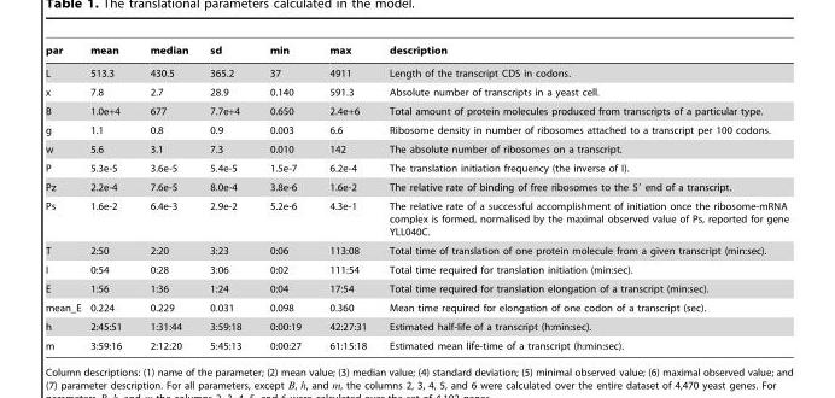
<table><thead><tr><td>par</td><td>mean</td><td>median</td><td>sd</td><td>min</td><td>max</td><td>description</td></tr></thead><tbody><tr><td>L</td><td>513.3</td><td>430.5</td><td>365.2</td><td>37</td><td>4911</td><td>Length of the transcript CDS in codons.</td></tr><tr><td>x</td><td>7.8</td><td>2.7</td><td>28.9</td><td>0.140</td><td>591.3</td><td>Absolute number of transcripts in a yeast cell.</td></tr><tr><td>B</td><td>1.0e+4</td><td>677</td><td>7.7e+4</td><td>0.650</td><td>2.4e+6</td><td>Total amount of protein molecules produced from transcripts of a particular type.</td></tr><tr><td>g</td><td>1.1</td><td>0.8</td><td>0.9</td><td>0.003</td><td>6.6</td><td>Ribosome density in number of ribosomes attached to a transcript per 100 codons.</td></tr><tr><td>w</td><td>5.6</td><td>3.1</td><td>7.3</td><td>0.010</td><td>142</td><td>The absolute number of ribosomes on a transcript.</td></tr><tr><td>P</td><td>5.3e-5</td><td>3.6e-5</td><td>5.4e-5</td><td>1.5e-7</td><td>6.2e-4</td><td>The translation initiation frequency (the inverse of I).</td></tr><tr><td>Pz</td><td>2.2e-4</td><td>7.6e-5</td><td>8.0e-4</td><td>3.8e-6</td><td>1.6e-2</td><td>The relative rate of binding of free ribosomes to the 5′ end of a transcript.</td></tr><tr><td>Ps</td><td>1.6e-2</td><td>6.4e-3</td><td>2.9e-2</td><td>5.2e-6</td><td>4.3e-1</td><td>The relative rate of a successful accomplishment of initiation once the ribosome-mRNA complex is formed, normalised by the maximal observed value of Ps, reported for gene YLL040C.</td></tr><tr><td>T</td><td>2:50</td><td>2:20</td><td>3:23</td><td>0:06</td><td>113:08</td><td>Total time of translation of one protein molecule from a given transcript (min:sec).</td></tr><tr><td>I</td><td>0:54</td><td>0:28</td><td>3:06</td><td>0:02</td><td>111:54</td><td>Total time required for translation initiation (min:sec).</td></tr><tr><td>E</td><td>1:56</td><td>1:36</td><td>1:24</td><td>0:04</td><td>17:54</td><td>Total time required for translation elongation of a transcript (min:sec).</td></tr><tr><td>mean_E</td><td>0.224</td><td>0.229</td><td>0.031</td><td>0.098</td><td>0.360</td><td>Mean time required for elongation of one codon of a transcript (sec).</td></tr><tr><td>h</td><td>2:45:51</td><td>1:31:44</td><td>3:59:18</td><td>0:00:19</td><td>42:27:31</td><td>Estimated half-life of a transcript (h:min:sec).</td></tr><tr><td>m</td><td>3:59:16</td><td>2:12:20</td><td>5:45:13</td><td>0:00:27</td><td>61:15:18</td><td>Estimated mean life-time of a transcript (h:min:sec).</td></tr></tbody></table>